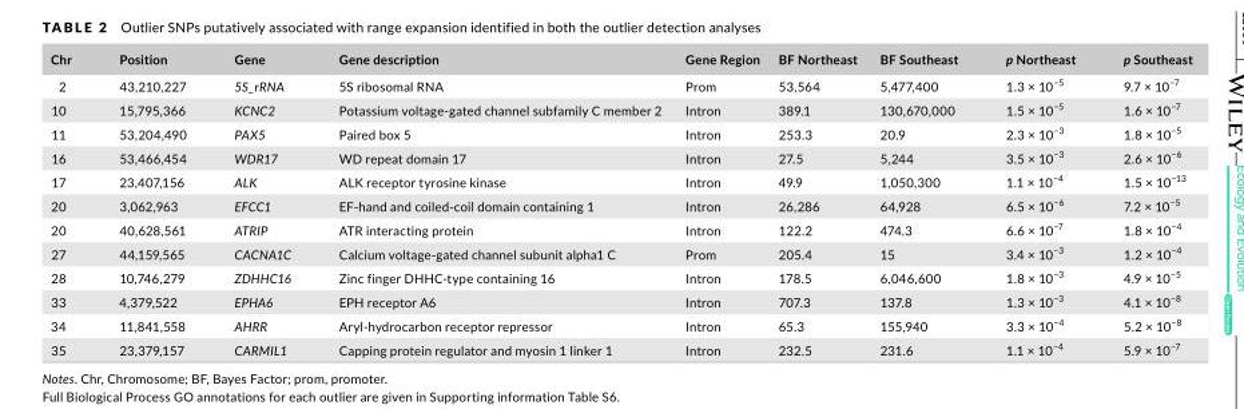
<table><thead><tr><td>Chr</td><td>Position</td><td>Gene</td><td>Gene description</td><td>Gene Region</td><td>BF Northeast</td><td>BF Southeast</td><td>p Northeast</td><td>p Southeast</td></tr></thead><tbody><tr><td>2</td><td>43,210,227</td><td>5S_rRNA</td><td>5S ribosomal RNA</td><td>Prom</td><td>53,564</td><td>5,477,400</td><td>1.3 × 10<sup>−5</sup></td><td>9.7 × 10<sup>−7</sup></td></tr><tr><td>10</td><td>15,795,366</td><td>KCNC2</td><td>Potassium voltage‐gated channel subfamily C member 2</td><td>Intron</td><td>389.1</td><td>130,670,000</td><td>1.5 × 10<sup>−5</sup></td><td>1.6 × 10<sup>−7</sup></td></tr><tr><td>11</td><td>53,204,490</td><td>PAX5</td><td>Paired box 5</td><td>Intron</td><td>253.3</td><td>20.9</td><td>2.3 × 10<sup>−3</sup></td><td>1.8 × 10<sup>−5</sup></td></tr><tr><td>16</td><td>53,466,454</td><td>WDR17</td><td>WD repeat domain 17</td><td>Intron</td><td>27.5</td><td>5,244</td><td>3.5 × 10<sup>−3</sup></td><td>2.6 × 10<sup>−6</sup></td></tr><tr><td>17</td><td>23,407,156</td><td>ALK</td><td>ALK receptor tyrosine kinase</td><td>Intron</td><td>49.9</td><td>1,050,300</td><td>1.1 × 10<sup>−4</sup></td><td>1.5 × 10<sup>−13</sup></td></tr><tr><td>20</td><td>3,062,963</td><td>EFCC1</td><td>EF‐hand and coiled‐coil domain containing 1</td><td>Intron</td><td>26,286</td><td>64,928</td><td>6.5 × 10<sup>−6</sup></td><td>7.2 × 10<sup>−5</sup></td></tr><tr><td>20</td><td>40,628,561</td><td>ATRIP</td><td>ATR interacting protein</td><td>Intron</td><td>122.2</td><td>474.3</td><td>6.6 × 10<sup>−7</sup></td><td>1.8 × 10<sup>−4</sup></td></tr><tr><td>27</td><td>44,159,565</td><td>CACNA1C</td><td>Calcium voltage‐gated channel subunit alpha1 C</td><td>Prom</td><td>205.4</td><td>15</td><td>3.4 × 10<sup>−3</sup></td><td>1.2 × 10<sup>−4</sup></td></tr><tr><td>28</td><td>10,746,279</td><td>ZDHHC16</td><td>Zinc finger DHHC‐type containing 16</td><td>Intron</td><td>178.5</td><td>6,046,600</td><td>1.8 × 10<sup>−3</sup></td><td>4.9 × 10<sup>−5</sup></td></tr><tr><td>33</td><td>4,379,522</td><td>EPHA6</td><td>EPH receptor A6</td><td>Intron</td><td>707.3</td><td>137.8</td><td>1.3 × 10<sup>−3</sup></td><td>4.1 × 10<sup>−8</sup></td></tr><tr><td>34</td><td>11,841,558</td><td>AHRR</td><td>Aryl‐hydrocarbon receptor repressor</td><td>Intron</td><td>65.3</td><td>155,940</td><td>3.3 × 10<sup>−4</sup></td><td>5.2 × 10<sup>−8</sup></td></tr><tr><td>35</td><td>23,379,157</td><td>CARMIL1</td><td>Capping protein regulator and myosin 1 linker 1</td><td>Intron</td><td>232.5</td><td>231.6</td><td>1.1 × 10<sup>−4</sup></td><td>5.9 × 10<sup>−7</sup></td></tr></tbody></table>